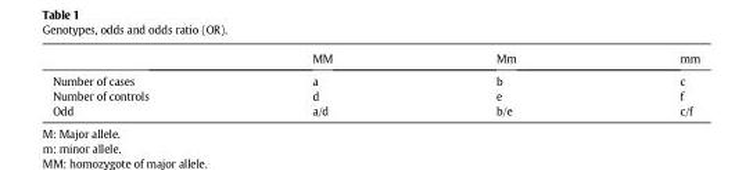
<table><thead><tr><td></td><td>MM</td><td>Mm</td><td>mm</td></tr></thead><tbody><tr><td>Number of cases</td><td>a</td><td>b</td><td>c</td></tr><tr><td>Number of controls</td><td>d</td><td>e</td><td>f</td></tr><tr><td>Odd</td><td>a/d</td><td>b/e</td><td>c/f</td></tr></tbody></table>